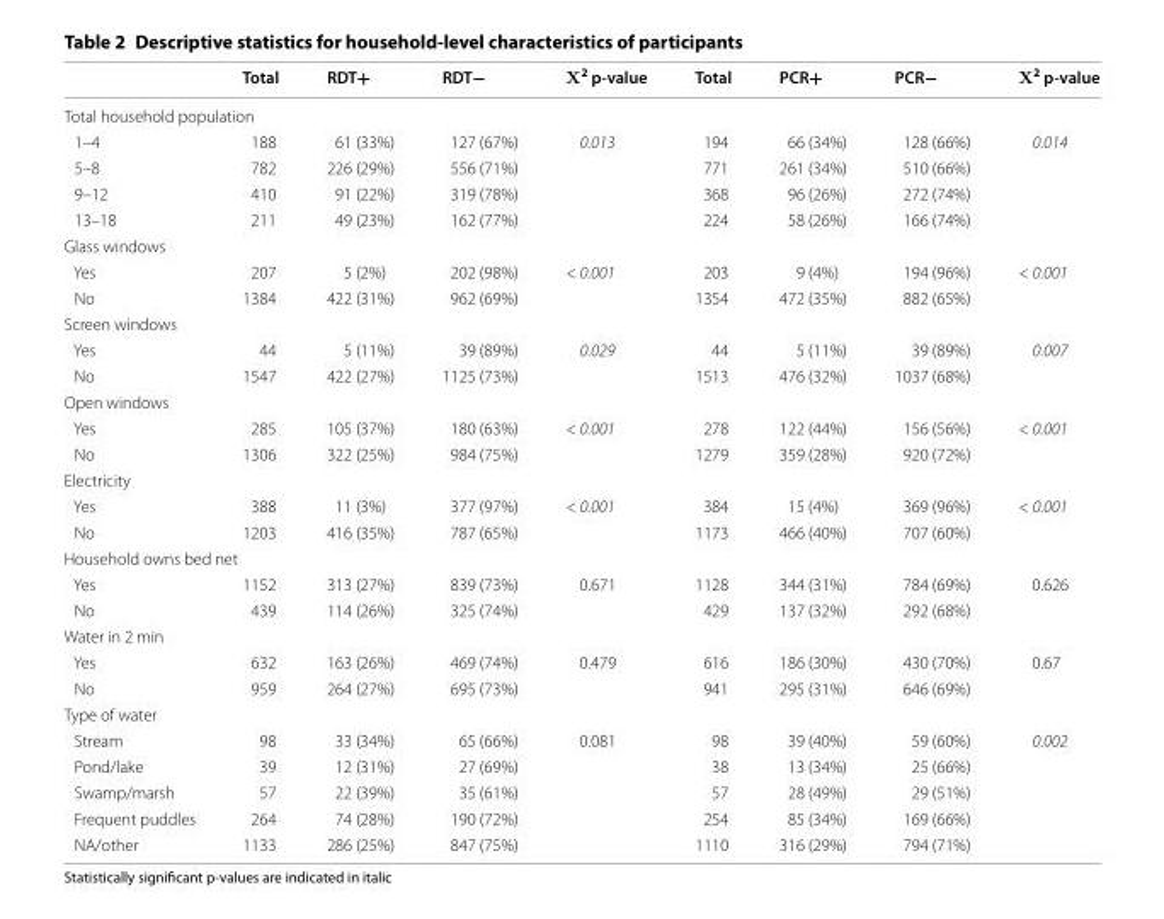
<table><thead><tr><td></td><td>Total</td><td>RDT+</td><td>RDT−</td><td>Χ<sup>2</sup> p-value</td><td>Total</td><td>PCR+</td><td>PCR−</td><td>Χ<sup>2</sup> p-value</td></tr></thead><tbody><tr><td colspan="9">Total household population</td></tr><tr><td>1–4</td><td>188</td><td>61 (33%)</td><td>127 (67%)</td><td>0.013</td><td>194</td><td>66 (34%)</td><td>128 (66%)</td><td>0.014</td></tr><tr><td>5–8</td><td>782</td><td>226 (29%)</td><td>556 (71%)</td><td></td><td>771</td><td>261 (34%)</td><td>510 (66%)</td><td></td></tr><tr><td>9–12</td><td>410</td><td>91 (22%)</td><td>319 (78%)</td><td></td><td>368</td><td>96 (26%)</td><td>272 (74%)</td><td></td></tr><tr><td>13–18</td><td>211</td><td>49 (23%)</td><td>162 (77%)</td><td></td><td>224</td><td>58 (26%)</td><td>166 (74%)</td><td></td></tr><tr><td colspan="9">Glass windows</td></tr><tr><td>Yes</td><td>207</td><td>5 (2%)</td><td>202 (98%)</td><td>&lt; 0.001</td><td>203</td><td>9 (4%)</td><td>194 (96%)</td><td>&lt; 0.001</td></tr><tr><td>No</td><td>1384</td><td>422 (31%)</td><td>962 (69%)</td><td></td><td>1354</td><td>472 (35%)</td><td>882 (65%)</td><td></td></tr><tr><td colspan="9">Screen windows</td></tr><tr><td>Yes</td><td>44</td><td>5 (11%)</td><td>39 (89%)</td><td>0.029</td><td>44</td><td>5 (11%)</td><td>39 (89%)</td><td>0.007</td></tr><tr><td>No</td><td>1547</td><td>422 (27%)</td><td>1125 (73%)</td><td></td><td>1513</td><td>476 (32%)</td><td>1037 (68%)</td><td></td></tr><tr><td colspan="9">Open windows</td></tr><tr><td>Yes</td><td>285</td><td>105 (37%)</td><td>180 (63%)</td><td>&lt; 0.001</td><td>278</td><td>122 (44%)</td><td>156 (56%)</td><td>&lt; 0.001</td></tr><tr><td>No</td><td>1306</td><td>322 (25%)</td><td>984 (75%)</td><td></td><td>1279</td><td>359 (28%)</td><td>920 (72%)</td><td></td></tr><tr><td colspan="9">Electricity</td></tr><tr><td>Yes</td><td>388</td><td>11 (3%)</td><td>377 (97%)</td><td>&lt; 0.001</td><td>384</td><td>15 (4%)</td><td>369 (96%)</td><td>&lt; 0.001</td></tr><tr><td>No</td><td>1203</td><td>416 (35%)</td><td>787 (65%)</td><td></td><td>1173</td><td>466 (40%)</td><td>707 (60%)</td><td></td></tr><tr><td colspan="9">Household owns bed net</td></tr><tr><td>Yes</td><td>1152</td><td>313 (27%)</td><td>839 (73%)</td><td>0.671</td><td>1128</td><td>344 (31%)</td><td>784 (69%)</td><td>0.626</td></tr><tr><td>No</td><td>439</td><td>114 (26%)</td><td>325 (74%)</td><td></td><td>429</td><td>137 (32%)</td><td>292 (68%)</td><td></td></tr><tr><td colspan="9">Water in 2 min</td></tr><tr><td>Yes</td><td>632</td><td>163 (26%)</td><td>469 (74%)</td><td>0.479</td><td>616</td><td>186 (30%)</td><td>430 (70%)</td><td>0.67</td></tr><tr><td>No</td><td>959</td><td>264 (27%)</td><td>695 (73%)</td><td></td><td>941</td><td>295 (31%)</td><td>646 (69%)</td><td></td></tr><tr><td colspan="9">Type of water</td></tr><tr><td>Stream</td><td>98</td><td>33 (34%)</td><td>65 (66%)</td><td>0.081</td><td>98</td><td>39 (40%)</td><td>59 (60%)</td><td>0.002</td></tr><tr><td>Pond/lake</td><td>39</td><td>12 (31%)</td><td>27 (69%)</td><td></td><td>38</td><td>13 (34%)</td><td>25 (66%)</td><td></td></tr><tr><td>Swamp/marsh</td><td>57</td><td>22 (39%)</td><td>35 (61%)</td><td></td><td>57</td><td>28 (49%)</td><td>29 (51%)</td><td></td></tr><tr><td>Frequent puddles</td><td>264</td><td>74 (28%)</td><td>190 (72%)</td><td></td><td>254</td><td>85 (34%)</td><td>169 (66%)</td><td></td></tr><tr><td>NA/other</td><td>1133</td><td>286 (25%)</td><td>847 (75%)</td><td></td><td>1110</td><td>316 (29%)</td><td>794 (71%)</td><td></td></tr></tbody></table>